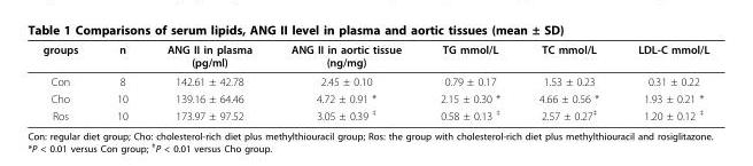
<table><thead><tr><td>groups</td><td>n</td><td>ANG II in plasma (pg/ml)</td><td>ANG II in aortic tissue (ng/mg)</td><td>TG mmol/L</td><td>TC mmol/L</td><td>LDL-C mmol/L</td></tr></thead><tbody><tr><td>Con</td><td>8</td><td>142.61 ± 42.78</td><td>2.45 ± 0.10</td><td>0.79 ± 0.17</td><td>1.53 ± 0.23</td><td>0.31 ± 0.22</td></tr><tr><td>Cho</td><td>10</td><td>139.16 ± 64.46</td><td>4.72 ± 0.91 *</td><td>2.15 ± 0.30 *</td><td>4.66 ± 0.56 *</td><td>1.93 ± 0.21 *</td></tr><tr><td>Ros</td><td>10</td><td>173.97 ± 97.52</td><td>3.05 ± 0.39 <sup>‡</sup></td><td>0.58 ± 0.13 <sup>‡</sup></td><td>2.57 ± 0.27<sup>‡</sup></td><td>1.20 ± 0.12 <sup>‡</sup></td></tr></tbody></table>